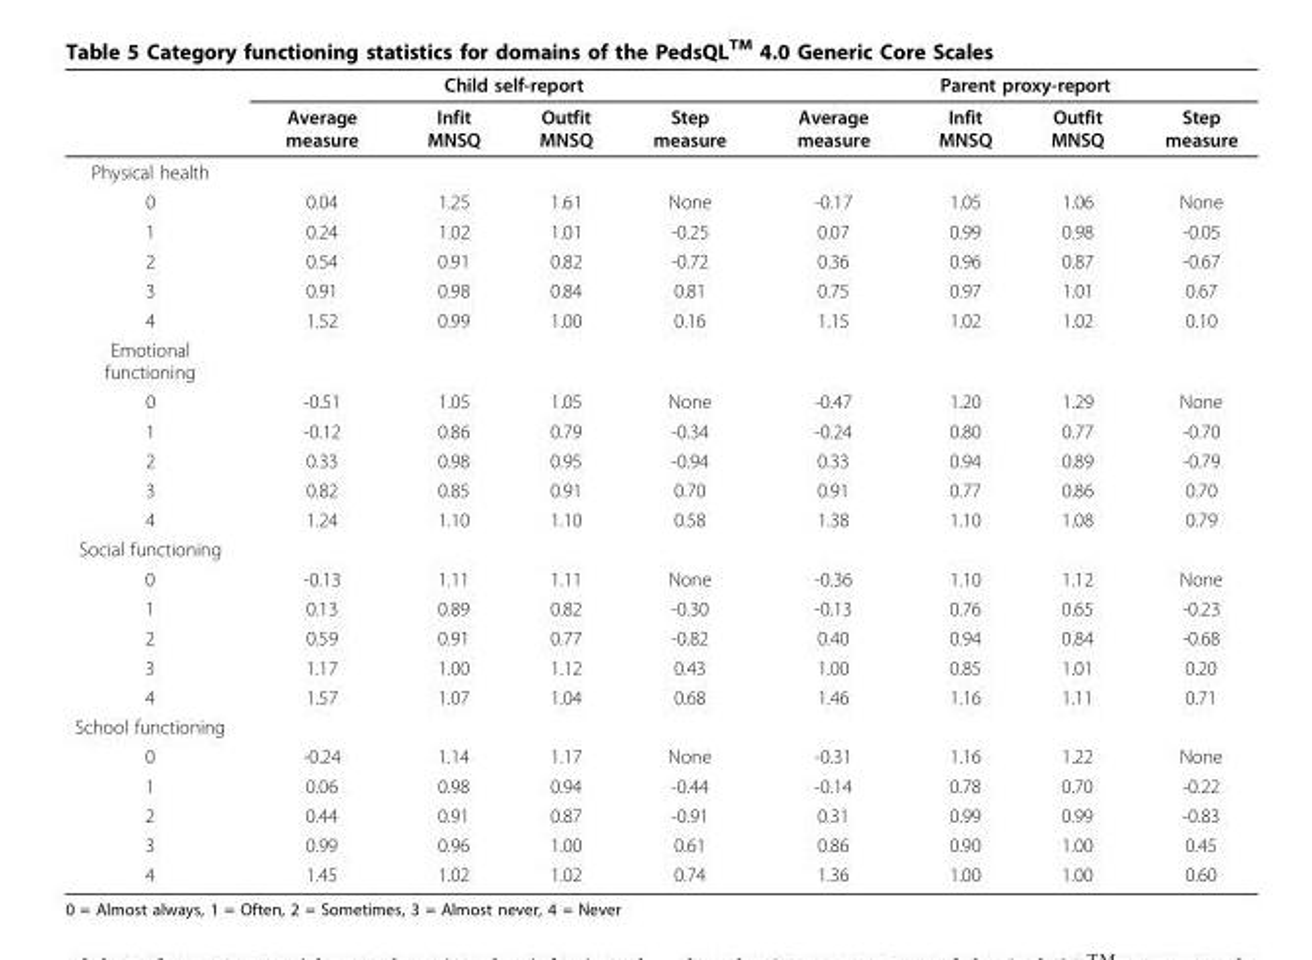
<table><thead><tr><td rowspan="2"></td><td rowspan="2">Average measure</td><td colspan="2">Child self-report</td><td rowspan="2">Step measure</td><td rowspan="2">Average measure</td><td colspan="2">Parent proxy-report</td><td rowspan="2">Step measure</td></tr><tr><td>Infit MNSQ</td><td>Outfit MNSQ</td><td>Infit MNSQ</td><td>Outfit MNSQ</td></tr></thead><tbody><tr><td colspan="9">Physical health</td></tr><tr><td>0</td><td>0.04</td><td>1.25</td><td>1.61</td><td>None</td><td>-0.17</td><td>1.05</td><td>1.06</td><td>None</td></tr><tr><td>1</td><td>0.24</td><td>1.02</td><td>1.01</td><td>-0.25</td><td>0.07</td><td>0.99</td><td>0.98</td><td>-0.05</td></tr><tr><td>2</td><td>0.54</td><td>0.91</td><td>0.82</td><td>-0.72</td><td>0.36</td><td>0.96</td><td>0.87</td><td>-0.67</td></tr><tr><td>3</td><td>0.91</td><td>0.98</td><td>0.84</td><td>0.81</td><td>0.75</td><td>0.97</td><td>1.01</td><td>0.67</td></tr><tr><td>4</td><td>1.52</td><td>0.99</td><td>1.00</td><td>0.16</td><td>1.15</td><td>1.02</td><td>1.02</td><td>0.10</td></tr><tr><td colspan="9">Emotional functioning</td></tr><tr><td>0</td><td>-0.51</td><td>1.05</td><td>1.05</td><td>None</td><td>-0.47</td><td>1.20</td><td>1.29</td><td>None</td></tr><tr><td>1</td><td>-0.12</td><td>0.86</td><td>0.79</td><td>-0.34</td><td>-0.24</td><td>0.80</td><td>0.77</td><td>-0.70</td></tr><tr><td>2</td><td>0.33</td><td>0.98</td><td>0.95</td><td>-0.94</td><td>0.33</td><td>0.94</td><td>0.89</td><td>-0.79</td></tr><tr><td>3</td><td>0.82</td><td>0.85</td><td>0.91</td><td>0.70</td><td>0.91</td><td>0.77</td><td>0.86</td><td>0.70</td></tr><tr><td>4</td><td>1.24</td><td>1.10</td><td>1.10</td><td>0.58</td><td>1.38</td><td>1.10</td><td>1.08</td><td>0.79</td></tr><tr><td colspan="9">Social functioning</td></tr><tr><td>0</td><td>-0.13</td><td>1.11</td><td>1.11</td><td>None</td><td>-0.36</td><td>1.10</td><td>1.12</td><td>None</td></tr><tr><td>1</td><td>0.13</td><td>0.89</td><td>0.82</td><td>-0.30</td><td>-0.13</td><td>0.76</td><td>0.65</td><td>-0.23</td></tr><tr><td>2</td><td>0.59</td><td>0.91</td><td>0.77</td><td>-0.82</td><td>0.40</td><td>0.94</td><td>0.84</td><td>-0.68</td></tr><tr><td>3</td><td>1.17</td><td>1.00</td><td>1.12</td><td>0.43</td><td>1.00</td><td>0.85</td><td>1.01</td><td>0.20</td></tr><tr><td>4</td><td>1.57</td><td>1.07</td><td>1.04</td><td>0.68</td><td>1.46</td><td>1.16</td><td>1.11</td><td>0.71</td></tr><tr><td colspan="9">School functioning</td></tr><tr><td>0</td><td>-0.24</td><td>1.14</td><td>1.17</td><td>None</td><td>-0.31</td><td>1.16</td><td>1.22</td><td>None</td></tr><tr><td>1</td><td>0.06</td><td>0.98</td><td>0.94</td><td>-0.44</td><td>-0.14</td><td>0.78</td><td>0.70</td><td>-0.22</td></tr><tr><td>2</td><td>0.44</td><td>0.91</td><td>0.87</td><td>-0.91</td><td>0.31</td><td>0.99</td><td>0.99</td><td>-0.83</td></tr><tr><td>3</td><td>0.99</td><td>0.96</td><td>1.00</td><td>0.61</td><td>0.86</td><td>0.90</td><td>1.00</td><td>0.45</td></tr><tr><td>4</td><td>1.45</td><td>1.02</td><td>1.02</td><td>0.74</td><td>1.36</td><td>1.00</td><td>1.00</td><td>0.60</td></tr></tbody></table>